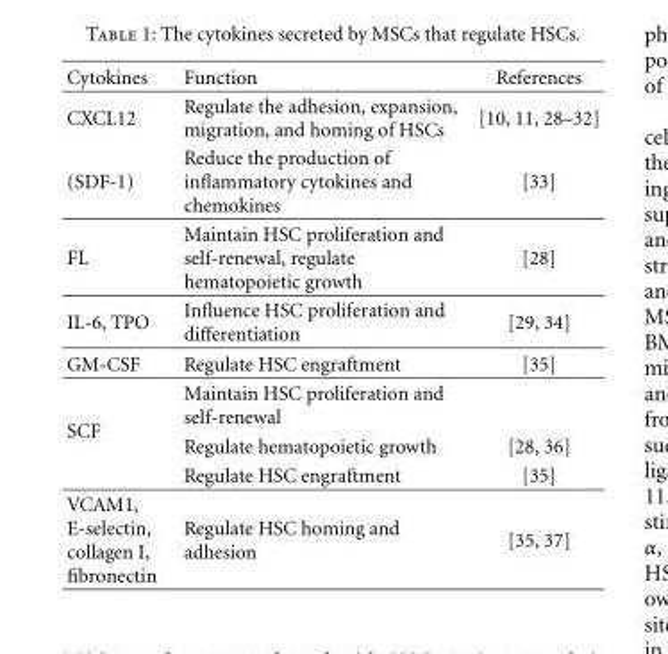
<table><thead><tr><td>Cytokines</td><td>Function</td><td>References</td></tr></thead><tbody><tr><td>CXCL12</td><td>Regulate the adhesion, expansion, migration, and homing of HSCs</td><td>[10, 11, 28–32]</td></tr><tr><td>(SDF-1)</td><td>Reduce the production of inflammatory cytokines and chemokines</td><td>[33]</td></tr><tr><td>FL</td><td>Maintain HSC proliferation and self-renewal, regulate hematopoietic growth</td><td>[28]</td></tr><tr><td>IL-6, TPO</td><td>Influence HSC proliferation and differentiation</td><td>[29, 34]</td></tr><tr><td>GM-CSF</td><td>Regulate HSC engraftment</td><td>[35]</td></tr><tr><td rowspan="3">SCF</td><td>Maintain HSC proliferation and self-renewal</td><td></td></tr><tr><td>Regulate hematopoietic growth</td><td>[28, 36]</td></tr><tr><td>Regulate HSC engraftment</td><td>[35]</td></tr><tr><td>VCAM1, E-selectin, collagen I, fibronectin</td><td>Regulate HSC homing and adhesion</td><td>[35, 37]</td></tr></tbody></table>